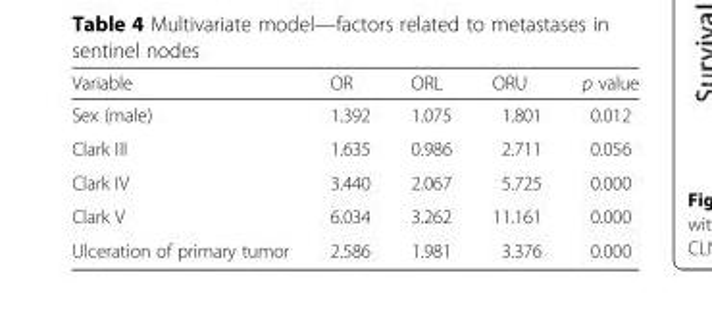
<table><thead><tr><td>Variable</td><td>OR</td><td>ORL</td><td>ORU</td><td>p value</td></tr></thead><tbody><tr><td>Sex (male)</td><td>1.392</td><td>1.075</td><td>1.801</td><td>0.012</td></tr><tr><td>Clark III</td><td>1.635</td><td>0.986</td><td>2.711</td><td>0.056</td></tr><tr><td>Clark IV</td><td>3.440</td><td>2.067</td><td>5.725</td><td>0.000</td></tr><tr><td>Clark V</td><td>6.034</td><td>3.262</td><td>11.161</td><td>0.000</td></tr><tr><td>Ulceration of primary tumor</td><td>2.586</td><td>1.981</td><td>3.376</td><td>0.000</td></tr></tbody></table>